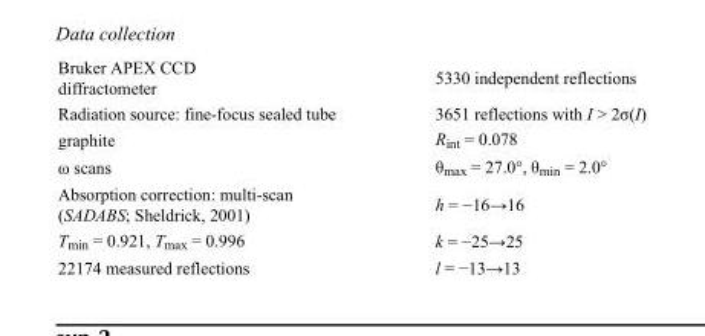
<table><tbody><tr><td>Bruker APEX CCD diffractometer</td><td>5330 independent reflections</td></tr><tr><td>Radiation source: fine-focus sealed tube</td><td>3651 reflections with I &gt; 2σ(I)</td></tr><tr><td>graphite</td><td>R<sub>int</sub> = 0.078</td></tr><tr><td>ω scans</td><td>θ<sub>max</sub> = 27.0°, θ<sub>min</sub> = 2.0°</td></tr><tr><td>Absorption correction: multi-scan (SADABS; Sheldrick, 2001)</td><td>h = −16→16</td></tr><tr><td>T<sub>min</sub> = 0.921, T<sub>max</sub> = 0.996</td><td>k = −25→25</td></tr><tr><td>22174 measured reflections</td><td>l = −13→13</td></tr></tbody></table>